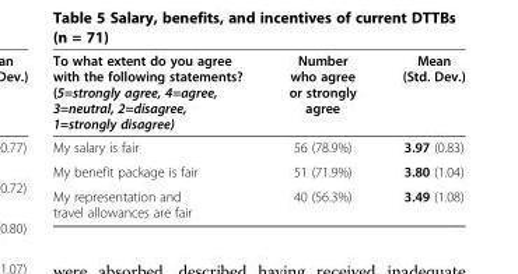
<table><thead><tr><td>To what extent do you agree with the following statements? (5=strongly agree, 4=agree, 3=neutral, 2=disagree, 1=strongly disagree)</td><td>Number who agree or strongly agree</td><td>Mean (Std. Dev.)</td></tr></thead><tbody><tr><td>My salary is fair</td><td>56 (78.9%)</td><td>3.97 (0.83)</td></tr><tr><td>My benefit package is fair</td><td>51 (71.9%)</td><td>3.80 (1.04)</td></tr><tr><td>My representation and travel allowances are fair</td><td>40 (56.3%)</td><td>3.49 (1.08)</td></tr></tbody></table>